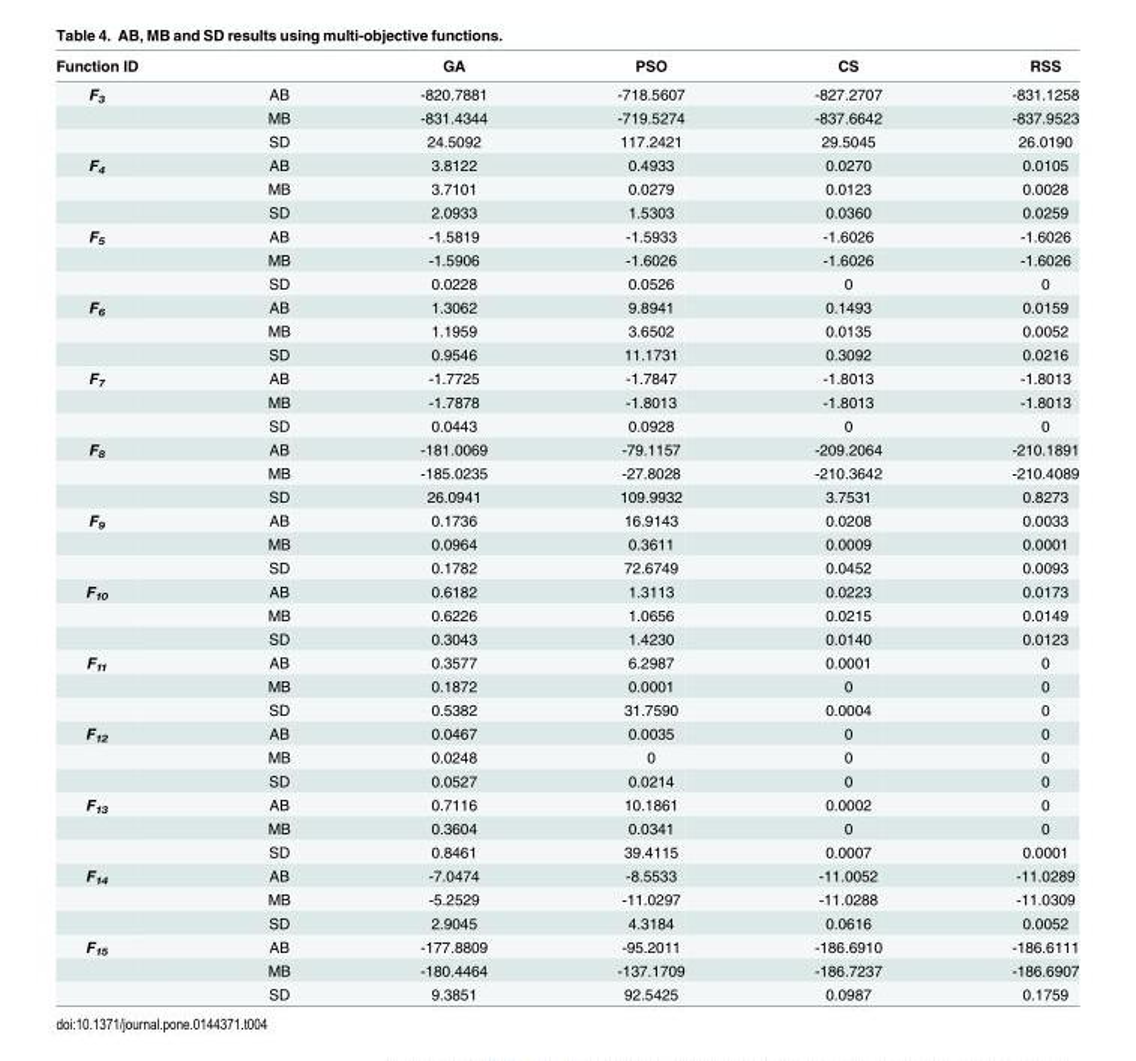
<table><thead><tr><td>Function ID</td><td></td><td>GA</td><td>PSO</td><td>CS</td><td>RSS</td></tr></thead><tbody><tr><td rowspan="3">F<sub>3</sub></td><td>AB</td><td>-820.7881</td><td>-718.5607</td><td>-827.2707</td><td>-831.1258</td></tr><tr><td>MB</td><td>-831.4344</td><td>-719.5274</td><td>-837.6642</td><td>-837.9523</td></tr><tr><td>SD</td><td>24.5092</td><td>117.2421</td><td>29.5045</td><td>26.0190</td></tr><tr><td rowspan="3">F<sub>4</sub></td><td>AB</td><td>3.8122</td><td>0.4933</td><td>0.0270</td><td>0.0105</td></tr><tr><td>MB</td><td>3.7101</td><td>0.0279</td><td>0.0123</td><td>0.0028</td></tr><tr><td>SD</td><td>2.0933</td><td>1.5303</td><td>0.0360</td><td>0.0259</td></tr><tr><td rowspan="3">F<sub>5</sub></td><td>AB</td><td>-1.5819</td><td>-1.5933</td><td>-1.6026</td><td>-1.6026</td></tr><tr><td>MB</td><td>-1.5906</td><td>-1.6026</td><td>-1.6026</td><td>-1.6026</td></tr><tr><td>SD</td><td>0.0228</td><td>0.0526</td><td>0</td><td>0</td></tr><tr><td rowspan="3">F<sub>6</sub></td><td>AB</td><td>1.3062</td><td>9.8941</td><td>0.1493</td><td>0.0159</td></tr><tr><td>MB</td><td>1.1959</td><td>3.6502</td><td>0.0135</td><td>0.0052</td></tr><tr><td>SD</td><td>0.9546</td><td>11.1731</td><td>0.3092</td><td>0.0216</td></tr><tr><td rowspan="3">F<sub>7</sub></td><td>AB</td><td>-1.7725</td><td>-1.7847</td><td>-1.8013</td><td>-1.8013</td></tr><tr><td>MB</td><td>-1.7878</td><td>-1.8013</td><td>-1.8013</td><td>-1.8013</td></tr><tr><td>SD</td><td>0.0443</td><td>0.0928</td><td>0</td><td>0</td></tr><tr><td rowspan="3">F<sub>8</sub></td><td>AB</td><td>-181.0069</td><td>-79.1157</td><td>-209.2064</td><td>-210.1891</td></tr><tr><td>MB</td><td>-185.0235</td><td>-27.8028</td><td>-210.3642</td><td>-210.4089</td></tr><tr><td>SD</td><td>26.0941</td><td>109.9932</td><td>3.7531</td><td>0.8273</td></tr><tr><td rowspan="3">F<sub>9</sub></td><td>AB</td><td>0.1736</td><td>16.9143</td><td>0.0208</td><td>0.0033</td></tr><tr><td>MB</td><td>0.0964</td><td>0.3611</td><td>0.0009</td><td>0.0001</td></tr><tr><td>SD</td><td>0.1782</td><td>72.6749</td><td>0.0452</td><td>0.0093</td></tr><tr><td rowspan="3">F<sub>10</sub></td><td>AB</td><td>0.6182</td><td>1.3113</td><td>0.0223</td><td>0.0173</td></tr><tr><td>MB</td><td>0.6226</td><td>1.0656</td><td>0.0215</td><td>0.0149</td></tr><tr><td>SD</td><td>0.3043</td><td>1.4230</td><td>0.0140</td><td>0.0123</td></tr><tr><td rowspan="3">F<sub>11</sub></td><td>AB</td><td>0.3577</td><td>6.2987</td><td>0.0001</td><td>0</td></tr><tr><td>MB</td><td>0.1872</td><td>0.0001</td><td>0</td><td>0</td></tr><tr><td>SD</td><td>0.5382</td><td>31.7590</td><td>0.0004</td><td>0</td></tr><tr><td rowspan="3">F<sub>12</sub></td><td>AB</td><td>0.0467</td><td>0.0035</td><td>0</td><td>0</td></tr><tr><td>MB</td><td>0.0248</td><td>0</td><td>0</td><td>0</td></tr><tr><td>SD</td><td>0.0527</td><td>0.0214</td><td>0</td><td>0</td></tr><tr><td rowspan="3">F<sub>13</sub></td><td>AB</td><td>0.7116</td><td>10.1861</td><td>0.0002</td><td>0</td></tr><tr><td>MB</td><td>0.3604</td><td>0.0341</td><td>0</td><td>0</td></tr><tr><td>SD</td><td>0.8461</td><td>39.4115</td><td>0.0007</td><td>0.0001</td></tr><tr><td rowspan="3">F<sub>14</sub></td><td>AB</td><td>-7.0474</td><td>-8.5533</td><td>-11.0052</td><td>-11.0289</td></tr><tr><td>MB</td><td>-5.2529</td><td>-11.0297</td><td>-11.0288</td><td>-11.0309</td></tr><tr><td>SD</td><td>2.9045</td><td>4.3184</td><td>0.0616</td><td>0.0052</td></tr><tr><td rowspan="3">F<sub>15</sub></td><td>AB</td><td>-177.8809</td><td>-95.2011</td><td>-186.6910</td><td>-186.6111</td></tr><tr><td>MB</td><td>-180.4464</td><td>-137.1709</td><td>-186.7237</td><td>-186.6907</td></tr><tr><td>SD</td><td>9.3851</td><td>92.5425</td><td>0.0987</td><td>0.1759</td></tr></tbody></table>